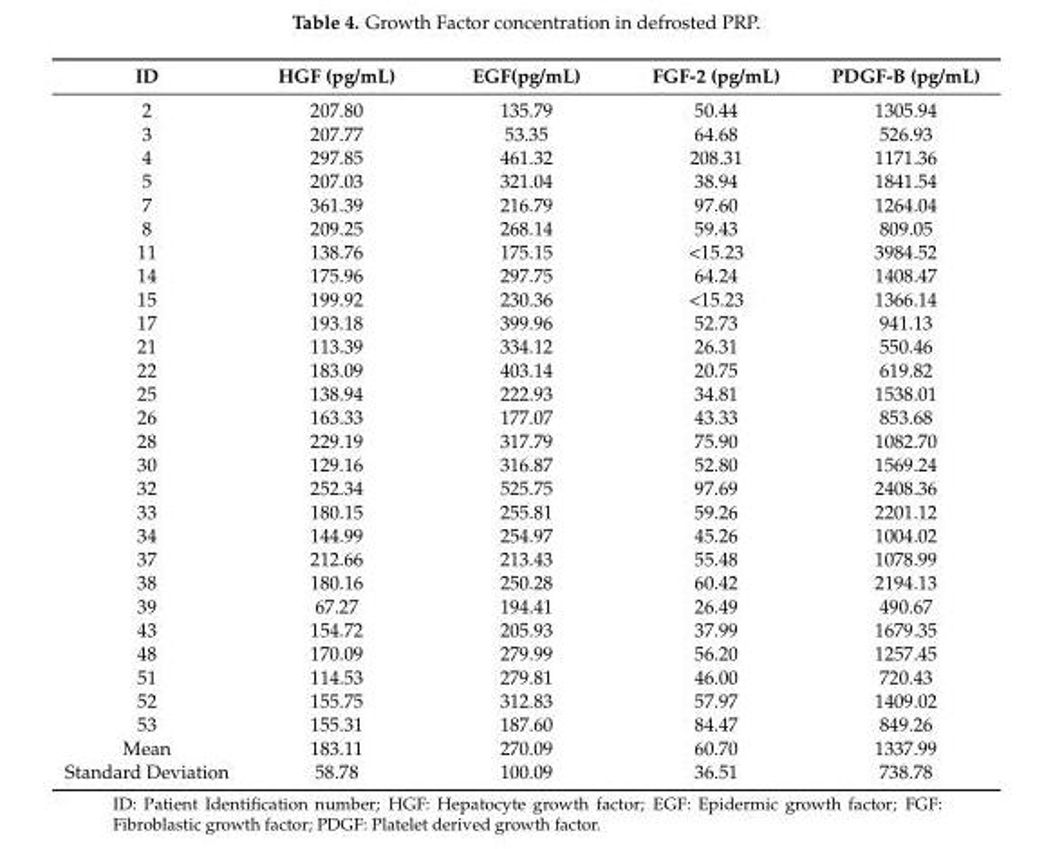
<table><thead><tr><td>ID</td><td>HGF (pg/mL)</td><td>EGF(pg/mL)</td><td>FGF-2 (pg/mL)</td><td>PDGF-B (pg/mL)</td></tr></thead><tbody><tr><td>2</td><td>207.80</td><td>135.79</td><td>50.44</td><td>1305.94</td></tr><tr><td>3</td><td>207.77</td><td>53.35</td><td>64.68</td><td>526.93</td></tr><tr><td>4</td><td>297.85</td><td>461.32</td><td>208.31</td><td>1171.36</td></tr><tr><td>5</td><td>207.03</td><td>321.04</td><td>38.94</td><td>1841.54</td></tr><tr><td>7</td><td>361.39</td><td>216.79</td><td>97.60</td><td>1264.04</td></tr><tr><td>8</td><td>209.25</td><td>268.14</td><td>59.43</td><td>809.05</td></tr><tr><td>11</td><td>138.76</td><td>175.15</td><td>&lt;15.23</td><td>3984.52</td></tr><tr><td>14</td><td>175.96</td><td>297.75</td><td>64.24</td><td>1408.47</td></tr><tr><td>15</td><td>199.92</td><td>230.36</td><td>&lt;15.23</td><td>1366.14</td></tr><tr><td>17</td><td>193.18</td><td>399.96</td><td>52.73</td><td>941.13</td></tr><tr><td>21</td><td>113.39</td><td>334.12</td><td>26.31</td><td>550.46</td></tr><tr><td>22</td><td>183.09</td><td>403.14</td><td>20.75</td><td>619.82</td></tr><tr><td>25</td><td>138.94</td><td>222.93</td><td>34.81</td><td>1538.01</td></tr><tr><td>26</td><td>163.33</td><td>177.07</td><td>43.33</td><td>853.68</td></tr><tr><td>28</td><td>229.19</td><td>317.79</td><td>75.90</td><td>1082.70</td></tr><tr><td>30</td><td>129.16</td><td>316.87</td><td>52.80</td><td>1569.24</td></tr><tr><td>32</td><td>252.34</td><td>525.75</td><td>97.69</td><td>2408.36</td></tr><tr><td>33</td><td>180.15</td><td>255.81</td><td>59.26</td><td>2201.12</td></tr><tr><td>34</td><td>144.99</td><td>254.97</td><td>45.26</td><td>1004.02</td></tr><tr><td>37</td><td>212.66</td><td>213.43</td><td>55.48</td><td>1078.99</td></tr><tr><td>38</td><td>180.16</td><td>250.28</td><td>60.42</td><td>2194.13</td></tr><tr><td>39</td><td>67.27</td><td>194.41</td><td>26.49</td><td>490.67</td></tr><tr><td>43</td><td>154.72</td><td>205.93</td><td>37.99</td><td>1679.35</td></tr><tr><td>48</td><td>170.09</td><td>279.99</td><td>56.20</td><td>1257.45</td></tr><tr><td>51</td><td>114.53</td><td>279.81</td><td>46.00</td><td>720.43</td></tr><tr><td>52</td><td>155.75</td><td>312.83</td><td>57.97</td><td>1409.02</td></tr><tr><td>53</td><td>155.31</td><td>187.60</td><td>84.47</td><td>849.26</td></tr><tr><td>Mean</td><td>183.11</td><td>270.09</td><td>60.70</td><td>1337.99</td></tr><tr><td>Standard Deviation</td><td>58.78</td><td>100.09</td><td>36.51</td><td>738.78</td></tr></tbody></table>